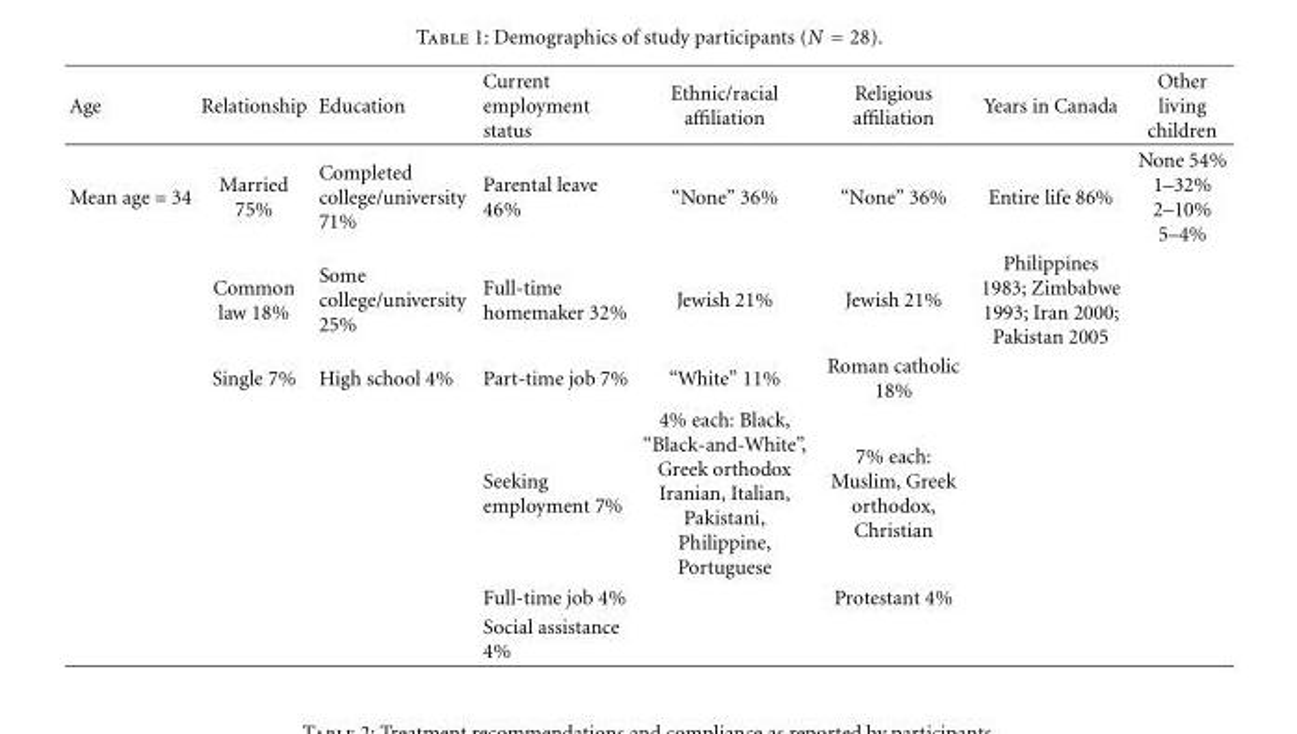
<table><thead><tr><td>Age</td><td>Relationship</td><td>Education</td><td>Current employment status</td><td>Ethnic/racial affiliation</td><td>Religious affiliation</td><td>Years in Canada</td><td>Other living children</td></tr></thead><tbody><tr><td rowspan="6">Mean age = 34</td><td>Married 75%</td><td>Completed college/university 71%</td><td>Parental leave 46%</td><td>“None” 36%</td><td>“None” 36%</td><td>Entire life 86%</td><td>None 54% 1–32% 2–10% 5–4%</td></tr><tr><td>Common law 18%</td><td>Some college/university 25%</td><td>Full-time homemaker 32%</td><td>Jewish 21%</td><td>Jewish 21%</td><td>Philippines 1983; Zimbabwe 1993; Iran 2000; Pakistan 2005</td><td></td></tr><tr><td>Single 7%</td><td>High school 4%</td><td>Part-time job 7%</td><td>“White” 11%</td><td>Roman catholic 18%</td><td></td><td></td></tr><tr><td></td><td></td><td>Seeking employment 7%</td><td>4% each: Black, “Black-and-White”, Greek orthodox Iranian, Italian, Pakistani, Philippine, Portuguese</td><td>7% each: Muslim, Greek orthodox, Christian</td><td></td><td></td></tr><tr><td></td><td></td><td>Full-time job 4%</td><td></td><td>Protestant 4%</td><td></td><td></td></tr><tr><td></td><td></td><td>Social assistance 4%</td><td></td><td></td><td></td><td></td></tr></tbody></table>